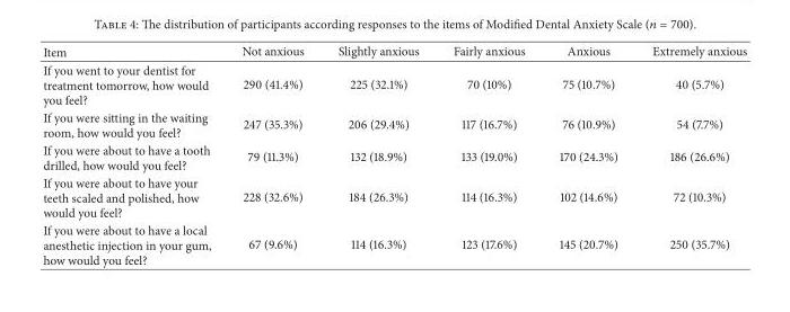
<table><thead><tr><td>Item</td><td>Not anxious</td><td>Slightly anxious</td><td>Fairly anxious</td><td>Anxious</td><td>Extremely anxious</td></tr></thead><tbody><tr><td>If you went to your dentist for treatment tomorrow, how would you feel?</td><td>290 (41.4%)</td><td>225 (32.1%)</td><td>70 (10%)</td><td>75 (10.7%)</td><td>40 (5.7%)</td></tr><tr><td>If you were sitting in the waiting room, how would you feel?</td><td>247 (35.3%)</td><td>206 (29.4%)</td><td>117 (16.7%)</td><td>76 (10.9%)</td><td>54 (7.7%)</td></tr><tr><td>If you were about to have a tooth drilled, how would you feel?</td><td>79 (11.3%)</td><td>132 (18.9%)</td><td>133 (19.0%)</td><td>170 (24.3%)</td><td>186 (26.6%)</td></tr><tr><td>If you were about to have your teeth scaled and polished, how would you feel?</td><td>228 (32.6%)</td><td>184 (26.3%)</td><td>114 (16.3%)</td><td>102 (14.6%)</td><td>72 (10.3%)</td></tr><tr><td>If you were about to have a local anesthetic injection in your gum, how would you feel?</td><td>67 (9.6%)</td><td>114 (16.3%)</td><td>123 (17.6%)</td><td>145 (20.7%)</td><td>250 (35.7%)</td></tr></tbody></table>